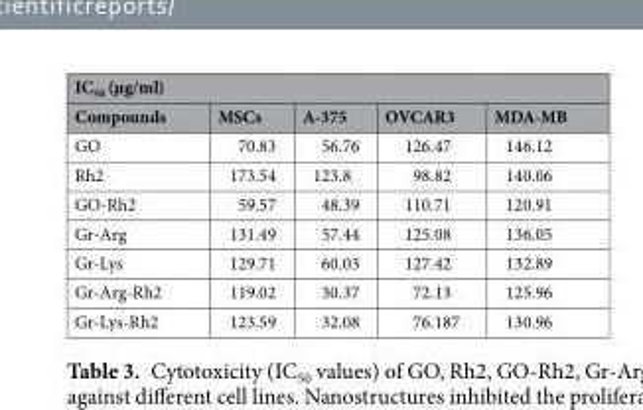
<table><thead><tr><td colspan="5">IC<sub>50</sub> (µg/ml)</td></tr><tr><td>Compounds</td><td>MSCs</td><td>A-375</td><td>OVCAR3</td><td>MDA-MB</td></tr></thead><tbody><tr><td>GO</td><td>70.83</td><td>56.76</td><td>126.47</td><td>146.12</td></tr><tr><td>Rh2</td><td>173.54</td><td>123.8</td><td>98.82</td><td>140.06</td></tr><tr><td>GO-Rh2</td><td>59.57</td><td>48.39</td><td>110.71</td><td>120.91</td></tr><tr><td>Gr-Arg</td><td>131.49</td><td>57.44</td><td>125.08</td><td>136.05</td></tr><tr><td>Gr-Lys</td><td>129.71</td><td>60.03</td><td>127.42</td><td>132.89</td></tr><tr><td>Gr-Arg-Rh2</td><td>119.02</td><td>30.37</td><td>72.13</td><td>125.96</td></tr><tr><td>Gr-Lys-Rh2</td><td>123.59</td><td>32.08</td><td>76.187</td><td>130.96</td></tr></tbody></table>